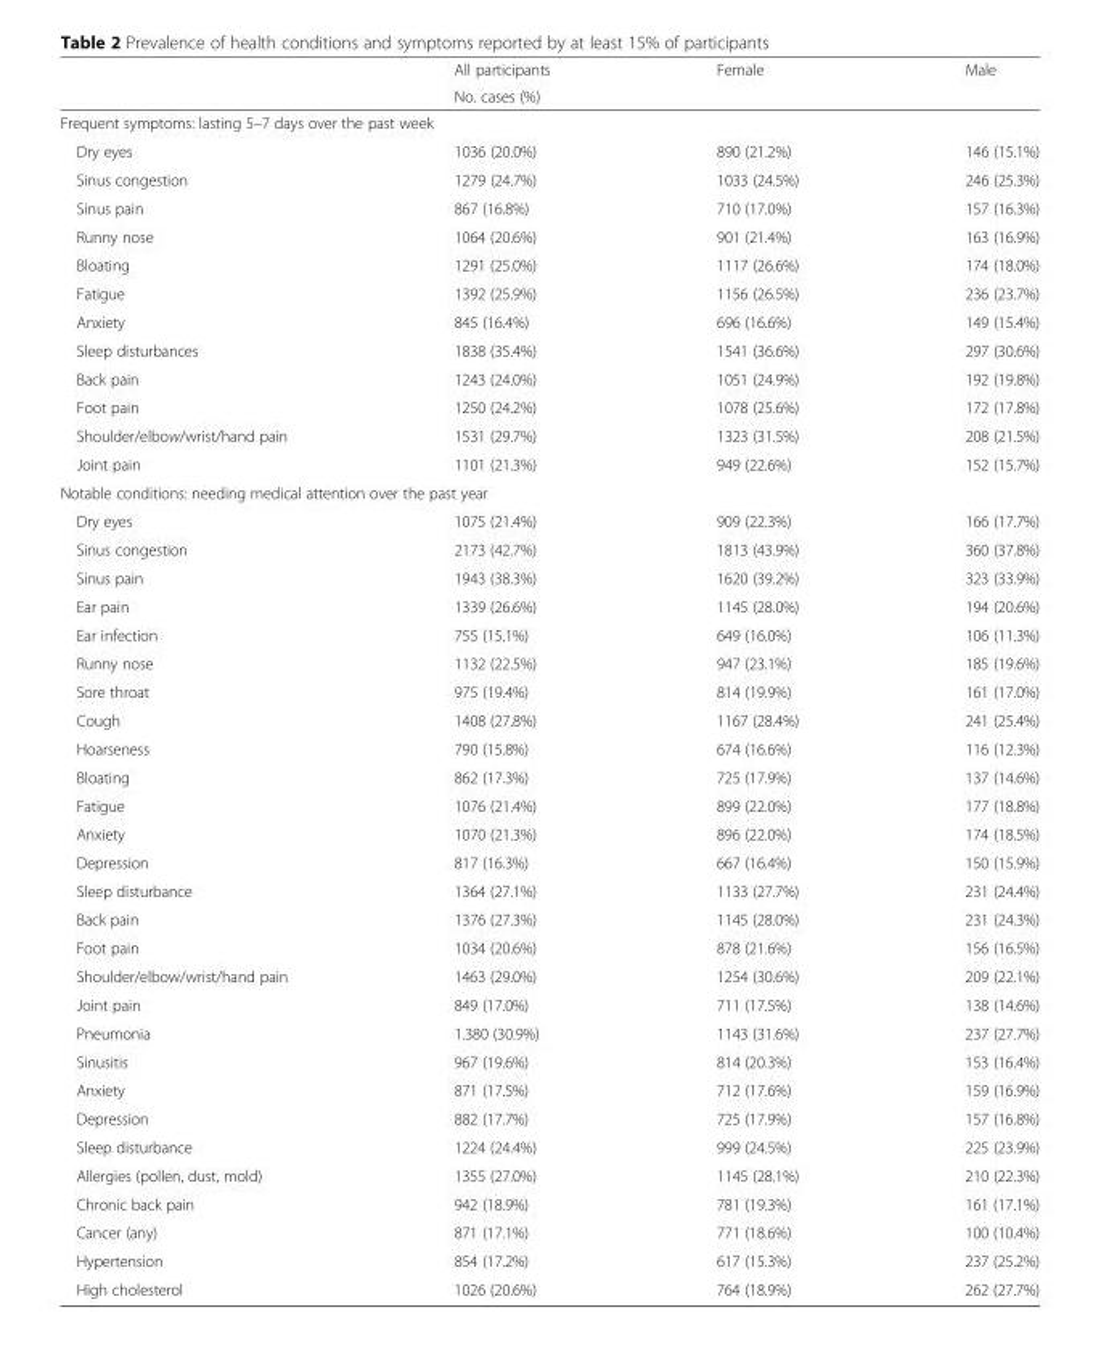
<table><thead><tr><td rowspan="2"></td><td>All participants</td><td>Female</td><td>Male</td></tr><tr><td colspan="3">No. cases (%)</td></tr></thead><tbody><tr><td colspan="4">Frequent symptoms: lasting 5–7 days over the past week</td></tr><tr><td>Dry eyes</td><td>1036 (20.0%)</td><td>890 (21.2%)</td><td>146 (15.1%)</td></tr><tr><td>Sinus congestion</td><td>1279 (24.7%)</td><td>1033 (24.5%)</td><td>246 (25.3%)</td></tr><tr><td>Sinus pain</td><td>867 (16.8%)</td><td>710 (17.0%)</td><td>157 (16.3%)</td></tr><tr><td>Runny nose</td><td>1064 (20.6%)</td><td>901 (21.4%)</td><td>163 (16.9%)</td></tr><tr><td>Bloating</td><td>1291 (25.0%)</td><td>1117 (26.6%)</td><td>174 (18.0%)</td></tr><tr><td>Fatigue</td><td>1392 (25.9%)</td><td>1156 (26.5%)</td><td>236 (23.7%)</td></tr><tr><td>Anxiety</td><td>845 (16.4%)</td><td>696 (16.6%)</td><td>149 (15.4%)</td></tr><tr><td>Sleep disturbances</td><td>1838 (35.4%)</td><td>1541 (36.6%)</td><td>297 (30.6%)</td></tr><tr><td>Back pain</td><td>1243 (24.0%)</td><td>1051 (24.9%)</td><td>192 (19.8%)</td></tr><tr><td>Foot pain</td><td>1250 (24.2%)</td><td>1078 (25.6%)</td><td>172 (17.8%)</td></tr><tr><td>Shoulder/elbow/wrist/hand pain</td><td>1531 (29.7%)</td><td>1323 (31.5%)</td><td>208 (21.5%)</td></tr><tr><td>Joint pain</td><td>1101 (21.3%)</td><td>949 (22.6%)</td><td>152 (15.7%)</td></tr><tr><td colspan="4">Notable conditions: needing medical attention over the past year</td></tr><tr><td>Dry eyes</td><td>1075 (21.4%)</td><td>909 (22.3%)</td><td>166 (17.7%)</td></tr><tr><td>Sinus congestion</td><td>2173 (42.7%)</td><td>1813 (43.9%)</td><td>360 (37.8%)</td></tr><tr><td>Sinus pain</td><td>1943 (38.3%)</td><td>1620 (39.2%)</td><td>323 (33.9%)</td></tr><tr><td>Ear pain</td><td>1339 (26.6%)</td><td>1145 (28.0%)</td><td>194 (20.6%)</td></tr><tr><td>Ear infection</td><td>755 (15.1%)</td><td>649 (16.0%)</td><td>106 (11.3%)</td></tr><tr><td>Runny nose</td><td>1132 (22.5%)</td><td>947 (23.1%)</td><td>185 (19.6%)</td></tr><tr><td>Sore throat</td><td>975 (19.4%)</td><td>814 (19.9%)</td><td>161 (17.0%)</td></tr><tr><td>Cough</td><td>1408 (27.8%)</td><td>1167 (28.4%)</td><td>241 (25.4%)</td></tr><tr><td>Hoarseness</td><td>790 (15.8%)</td><td>674 (16.6%)</td><td>116 (12.3%)</td></tr><tr><td>Bloating</td><td>862 (17.3%)</td><td>725 (17.9%)</td><td>137 (14.6%)</td></tr><tr><td>Fatigue</td><td>1076 (21.4%)</td><td>899 (22.0%)</td><td>177 (18.8%)</td></tr><tr><td>Anxiety</td><td>1070 (21.3%)</td><td>896 (22.0%)</td><td>174 (18.5%)</td></tr><tr><td>Depression</td><td>817 (16.3%)</td><td>667 (16.4%)</td><td>150 (15.9%)</td></tr><tr><td>Sleep disturbance</td><td>1364 (27.1%)</td><td>1133 (27.7%)</td><td>231 (24.4%)</td></tr><tr><td>Back pain</td><td>1376 (27.3%)</td><td>1145 (28.0%)</td><td>231 (24.3%)</td></tr><tr><td>Foot pain</td><td>1034 (20.6%)</td><td>878 (21.6%)</td><td>156 (16.5%)</td></tr><tr><td>Shoulder/elbow/wrist/hand pain</td><td>1463 (29.0%)</td><td>1254 (30.6%)</td><td>209 (22.1%)</td></tr><tr><td>Joint pain</td><td>849 (17.0%)</td><td>711 (17.5%)</td><td>138 (14.6%)</td></tr><tr><td>Pneumonia</td><td>1.380 (30.9%)</td><td>1143 (31.6%)</td><td>237 (27.7%)</td></tr><tr><td>Sinusitis</td><td>967 (19.6%)</td><td>814 (20.3%)</td><td>153 (16.4%)</td></tr><tr><td>Anxiety</td><td>871 (17.5%)</td><td>712 (17.6%)</td><td>159 (16.9%)</td></tr><tr><td>Depression</td><td>882 (17.7%)</td><td>725 (17.9%)</td><td>157 (16.8%)</td></tr><tr><td>Sleep disturbance</td><td>1224 (24.4%)</td><td>999 (24.5%)</td><td>225 (23.9%)</td></tr><tr><td>Allergies (pollen, dust, mold)</td><td>1355 (27.0%)</td><td>1145 (28.1%)</td><td>210 (22.3%)</td></tr><tr><td>Chronic back pain</td><td>942 (18.9%)</td><td>781 (19.3%)</td><td>161 (17.1%)</td></tr><tr><td>Cancer (any)</td><td>871 (17.1%)</td><td>771 (18.6%)</td><td>100 (10.4%)</td></tr><tr><td>Hypertension</td><td>854 (17.2%)</td><td>617 (15.3%)</td><td>237 (25.2%)</td></tr><tr><td>High cholesterol</td><td>1026 (20.6%)</td><td>764 (18.9%)</td><td>262 (27.7%)</td></tr></tbody></table>